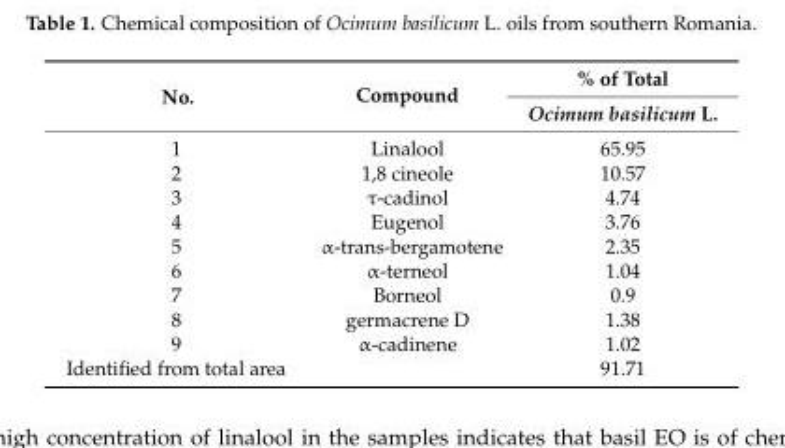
<table><thead><tr><td rowspan="2">No.</td><td rowspan="2">Compound</td><td rowspan="2">% of Total Ocimum basilicum L.</td></tr><tr></tr></thead><tbody><tr><td>1</td><td>Linalool</td><td>65.95</td></tr><tr><td>2</td><td>1,8 cineole</td><td>10.57</td></tr><tr><td>3</td><td>τ-cadinol</td><td>4.74</td></tr><tr><td>4</td><td>Eugenol</td><td>3.76</td></tr><tr><td>5</td><td>α-trans-bergamotene</td><td>2.35</td></tr><tr><td>6</td><td>α-terneol</td><td>1.04</td></tr><tr><td>7</td><td>Borneol</td><td>0.9</td></tr><tr><td>8</td><td>germacrene D</td><td>1.38</td></tr><tr><td>9</td><td>α-cadinene</td><td>1.02</td></tr><tr><td>Identified from total area</td><td></td><td>91.71</td></tr></tbody></table>